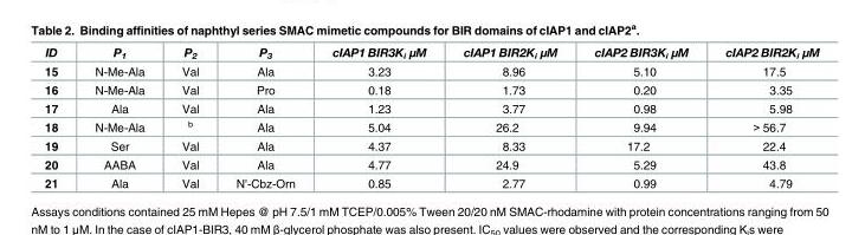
<table><thead><tr><td>ID</td><td>P<sub>1</sub></td><td>P<sub>2</sub></td><td>P<sub>3</sub></td><td>cIAP1 BIR3K<sub>i</sub> μM</td><td>cIAP1 BIR2K<sub>i</sub> μM</td><td>cIAP2 BIR3K<sub>i</sub> μM</td><td>cIAP2 BIR2K<sub>i</sub> μM</td></tr></thead><tbody><tr><td>15</td><td>N-Me-Ala</td><td>Val</td><td>Ala</td><td>3.23</td><td>8.96</td><td>5.10</td><td>17.5</td></tr><tr><td>16</td><td>N-Me-Ala</td><td>Val</td><td>Pro</td><td>0.18</td><td>1.73</td><td>0.20</td><td>3.35</td></tr><tr><td>17</td><td>Ala</td><td>Val</td><td>Ala</td><td>1.23</td><td>3.77</td><td>0.98</td><td>5.98</td></tr><tr><td>18</td><td>N-Me-Ala</td><td><sup>b</sup></td><td>Ala</td><td>5.04</td><td>26.2</td><td>9.94</td><td>&gt; 56.7</td></tr><tr><td>19</td><td>Ser</td><td>Val</td><td>Ala</td><td>4.37</td><td>8.33</td><td>17.2</td><td>22.4</td></tr><tr><td>20</td><td>AABA</td><td>Val</td><td>Ala</td><td>4.77</td><td>24.9</td><td>5.29</td><td>43.8</td></tr><tr><td>21</td><td>Ala</td><td>Val</td><td>N&#x27;-Cbz-Orn</td><td>0.85</td><td>2.77</td><td>0.99</td><td>4.79</td></tr></tbody></table>